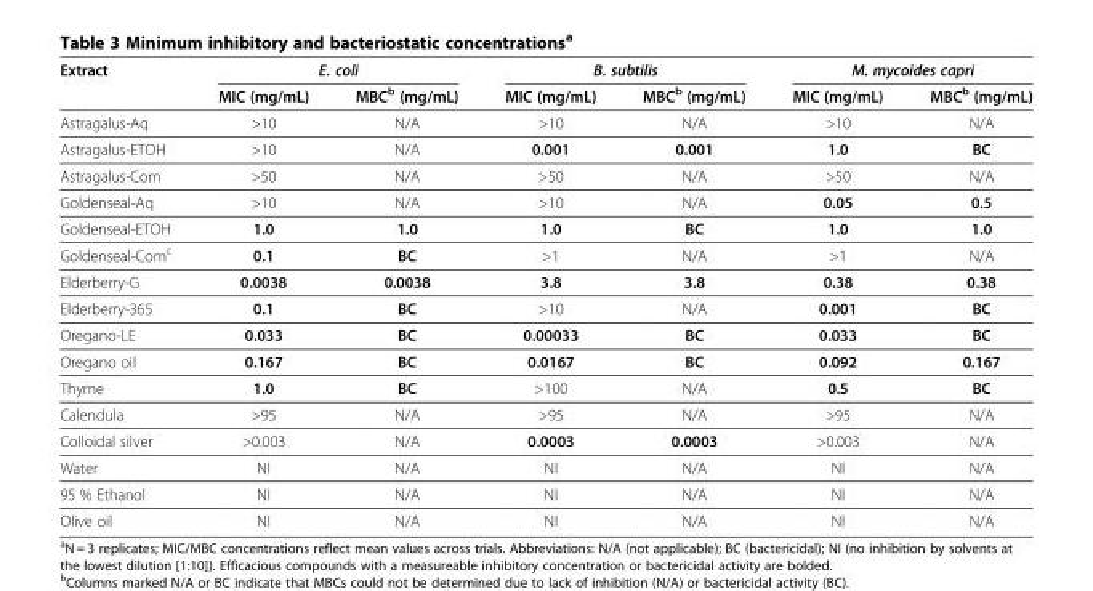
<table><thead><tr><td rowspan="2">Extract</td><td colspan="2">E. coli</td><td colspan="2">B. subtilis</td><td colspan="2">M. mycoides capri</td></tr><tr><td>MIC (mg/mL)</td><td>MBC<sup>b</sup> (mg/mL)</td><td>MIC (mg/mL)</td><td>MBC<sup>b</sup> (mg/mL)</td><td>MIC (mg/mL)</td><td>MBC<sup>b</sup> (mg/mL)</td></tr></thead><tbody><tr><td>Astragalus-Aq</td><td>&gt;10</td><td>N/A</td><td>&gt;10</td><td>N/A</td><td>&gt;10</td><td>N/A</td></tr><tr><td>Astragalus-ETOH</td><td>&gt;10</td><td>N/A</td><td>0.001</td><td>0.001</td><td>1.0</td><td>BC</td></tr><tr><td>Astragalus-Com</td><td>&gt;50</td><td>N/A</td><td>&gt;50</td><td>N/A</td><td>&gt;50</td><td>N/A</td></tr><tr><td>Goldenseal-Aq</td><td>&gt;10</td><td>N/A</td><td>&gt;10</td><td>N/A</td><td>0.05</td><td>0.5</td></tr><tr><td>Goldenseal-ETOH</td><td>1.0</td><td>1.0</td><td>1.0</td><td>BC</td><td>1.0</td><td>1.0</td></tr><tr><td>Goldenseal-Com<sup>c</sup></td><td>0.1</td><td>BC</td><td>&gt;1</td><td>N/A</td><td>&gt;1</td><td>N/A</td></tr><tr><td>Elderberry-G</td><td>0.0038</td><td>0.0038</td><td>3.8</td><td>3.8</td><td>0.38</td><td>0.38</td></tr><tr><td>Elderberry-365</td><td>0.1</td><td>BC</td><td>&gt;10</td><td>N/A</td><td>0.001</td><td>BC</td></tr><tr><td>Oregano-LE</td><td>0.033</td><td>BC</td><td>0.00033</td><td>BC</td><td>0.033</td><td>BC</td></tr><tr><td>Oregano oil</td><td>0.167</td><td>BC</td><td>0.0167</td><td>BC</td><td>0.092</td><td>0.167</td></tr><tr><td>Thyme</td><td>1.0</td><td>BC</td><td>&gt;100</td><td>N/A</td><td>0.5</td><td>BC</td></tr><tr><td>Calendula</td><td>&gt;95</td><td>N/A</td><td>&gt;95</td><td>N/A</td><td>&gt;95</td><td>N/A</td></tr><tr><td>Colloidal silver</td><td>&gt;0.003</td><td>N/A</td><td>0.0003</td><td>0.0003</td><td>&gt;0.003</td><td>N/A</td></tr><tr><td>Water</td><td>NI</td><td>N/A</td><td>NI</td><td>N/A</td><td>NI</td><td>N/A</td></tr><tr><td>95 % Ethanol</td><td>NI</td><td>N/A</td><td>NI</td><td>N/A</td><td>NI</td><td>N/A</td></tr><tr><td>Olive oil</td><td>NI</td><td>N/A</td><td>NI</td><td>N/A</td><td>NI</td><td>N/A</td></tr></tbody></table>